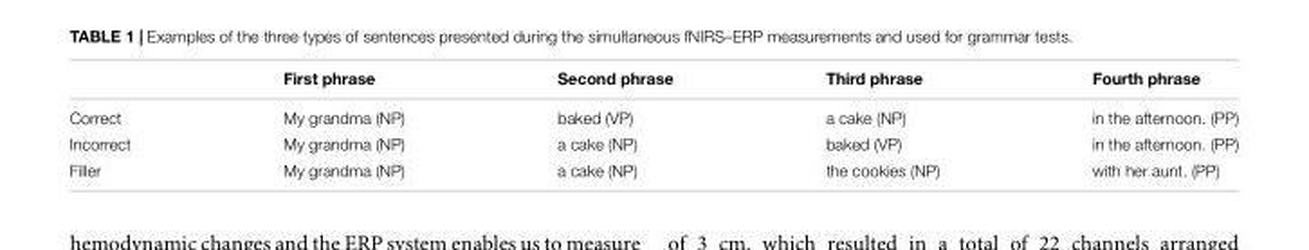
<table><thead><tr><td></td><td>First phrase</td><td>Second phrase</td><td>Third phrase</td><td>Fourth phrase</td></tr></thead><tbody><tr><td>Correct</td><td>My grandma (NP)</td><td>baked (VP)</td><td>a cake (NP)</td><td>in the afternoon. (PP)</td></tr><tr><td>Incorrect</td><td>My grandma (NP)</td><td>a cake (NP)</td><td>baked (VP)</td><td>in the afternoon. (PP)</td></tr><tr><td>Filler</td><td>My grandma (NP)</td><td>a cake (NP)</td><td>the cookies (NP)</td><td>with her aunt. (PP)</td></tr></tbody></table>